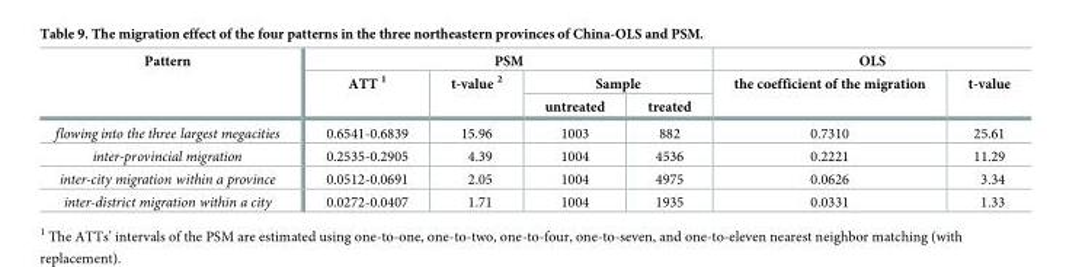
<table><thead><tr><td rowspan="3">Pattern</td><td colspan="4">PSM</td><td colspan="2">OLS</td></tr><tr><td rowspan="2">ATT <sup>1</sup></td><td rowspan="2">t-value <sup>2</sup></td><td colspan="2">Sample</td><td rowspan="2">the coefficient of the migration</td><td rowspan="2">t-value</td></tr><tr><td>untreated</td><td>treated</td></tr></thead><tbody><tr><td>flowing into the three largest megacities</td><td>0.6541-0.6839</td><td>15.96</td><td>1003</td><td>882</td><td>0.7310</td><td>25.61</td></tr><tr><td>inter-provincial migration</td><td>0.2535-0.2905</td><td>4.39</td><td>1004</td><td>4536</td><td>0.2221</td><td>11.29</td></tr><tr><td>inter-city migration within a province</td><td>0.0512-0.0691</td><td>2.05</td><td>1004</td><td>4975</td><td>0.0626</td><td>3.34</td></tr><tr><td>inter-district migration within a city</td><td>0.0272-0.0407</td><td>1.71</td><td>1004</td><td>1935</td><td>0.0331</td><td>1.33</td></tr></tbody></table>